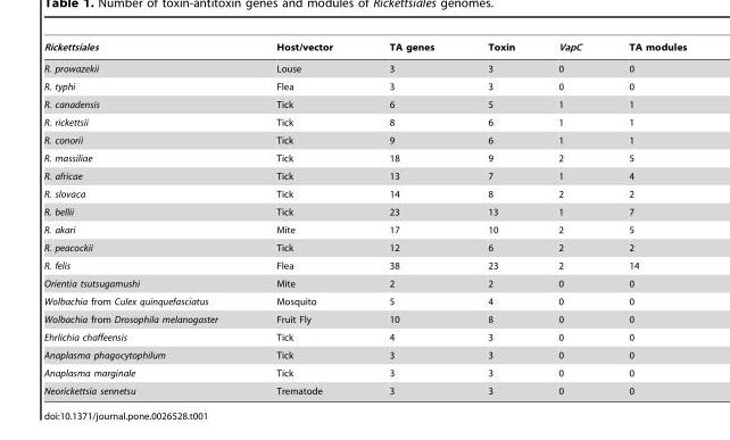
<table><thead><tr><td>Rickettsiales</td><td>Host/vector</td><td>TA genes</td><td>Toxin</td><td>VapC</td><td>TA modules</td></tr></thead><tbody><tr><td>R. prowazekii</td><td>Louse</td><td>3</td><td>3</td><td>0</td><td>0</td></tr><tr><td>R. typhi</td><td>Flea</td><td>3</td><td>3</td><td>0</td><td>0</td></tr><tr><td>R. canadensis</td><td>Tick</td><td>6</td><td>5</td><td>1</td><td>1</td></tr><tr><td>R. rickettsii</td><td>Tick</td><td>8</td><td>6</td><td>1</td><td>1</td></tr><tr><td>R. conorii</td><td>Tick</td><td>9</td><td>6</td><td>1</td><td>1</td></tr><tr><td>R. massiliae</td><td>Tick</td><td>18</td><td>9</td><td>2</td><td>5</td></tr><tr><td>R. africae</td><td>Tick</td><td>13</td><td>7</td><td>1</td><td>4</td></tr><tr><td>R. slovaca</td><td>Tick</td><td>14</td><td>8</td><td>2</td><td>2</td></tr><tr><td>R. bellii</td><td>Tick</td><td>23</td><td>13</td><td>1</td><td>7</td></tr><tr><td>R. akari</td><td>Mite</td><td>17</td><td>10</td><td>2</td><td>5</td></tr><tr><td>R. peacockii</td><td>Tick</td><td>12</td><td>6</td><td>2</td><td>2</td></tr><tr><td>R. felis</td><td>Flea</td><td>38</td><td>23</td><td>2</td><td>14</td></tr><tr><td>Orientia tsutsugamushi</td><td>Mite</td><td>2</td><td>2</td><td>0</td><td>0</td></tr><tr><td>Wolbachia from Culex quinquefasciatus</td><td>Mosquito</td><td>5</td><td>4</td><td>0</td><td>0</td></tr><tr><td>Wolbachia from Drosophila melanogaster</td><td>Fruit Fly</td><td>10</td><td>8</td><td>0</td><td>0</td></tr><tr><td>Ehrlichia chaffeensis</td><td>Tick</td><td>4</td><td>3</td><td>0</td><td>0</td></tr><tr><td>Anaplasma phagocytophilum</td><td>Tick</td><td>3</td><td>3</td><td>0</td><td>0</td></tr><tr><td>Anaplasma marginale</td><td>Tick</td><td>3</td><td>3</td><td>0</td><td>0</td></tr><tr><td>Neorickettsia sennetsu</td><td>Trematode</td><td>3</td><td>3</td><td>0</td><td>0</td></tr></tbody></table>